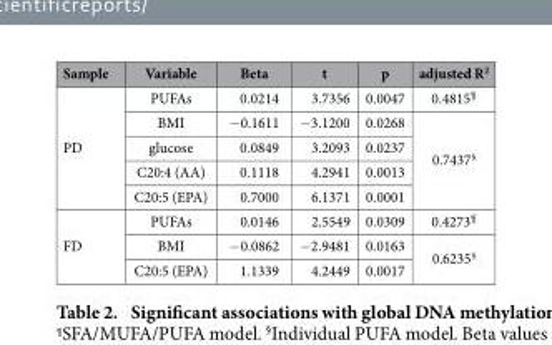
<table><thead><tr><td>Sample</td><td>Variable</td><td>Beta</td><td>t</td><td>p</td><td>adjusted R<sup>2</sup></td></tr></thead><tbody><tr><td rowspan="5">PD</td><td>PUFAs</td><td>0.0214</td><td>3.7356</td><td>0.0047</td><td>0.4815¶</td></tr><tr><td>BMI</td><td>− 0.1611</td><td>− 3.1200</td><td>0.0268</td><td rowspan="4">0.7437§</td></tr><tr><td>glucose</td><td>0.0849</td><td>3.2093</td><td>0.0237</td></tr><tr><td>C20:4 (AA)</td><td>0.1118</td><td>4.2941</td><td>0.0013</td></tr><tr><td>C20:5 (EPA)</td><td>0.7000</td><td>6.1371</td><td>0.0001</td></tr><tr><td rowspan="3">FD</td><td>PUFAs</td><td>0.0146</td><td>2.5549</td><td>0.0309</td><td>0.4273¶</td></tr><tr><td>BMI</td><td>− 0.0862</td><td>− 2.9481</td><td>0.0163</td><td rowspan="2">0.6235§</td></tr><tr><td>C20:5 (EPA)</td><td>1.1339</td><td>4.2449</td><td>0.0017</td></tr></tbody></table>